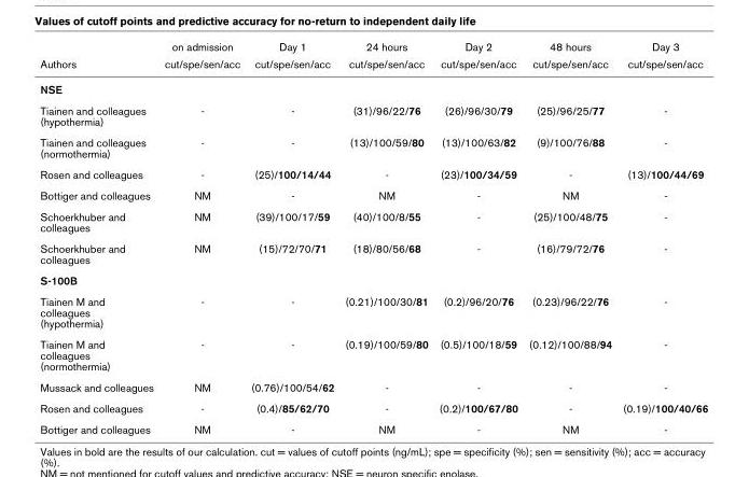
<table><thead><tr><td rowspan="2">Authors</td><td rowspan="2">on admission cut/spe/sen/acc</td><td rowspan="2">Day 1 cut/spe/sen/acc</td><td rowspan="2">24 hours cut/spe/sen/acc</td><td rowspan="2">Day 2 cut/spe/sen/acc</td><td rowspan="2">48 hours cut/spe/sen/acc</td><td rowspan="2">Day 3 cut/spe/sen/acc</td></tr><tr></tr></thead><tbody><tr><td colspan="7">NSE</td></tr><tr><td>Tiainen and colleagues (hypothermia)</td><td>-</td><td>-</td><td>(31)/96/22/76</td><td>(26)/96/30/79</td><td>(25)/96/25/77</td><td>-</td></tr><tr><td>Tiainen and colleagues (normothermia)</td><td>-</td><td>-</td><td>(13)/100/59/80</td><td>(13)/100/63/82</td><td>(9)/100/76/88</td><td>-</td></tr><tr><td>Rosen and colleagues</td><td>-</td><td>(25)/100/14/44</td><td>-</td><td>(23)/100/34/59</td><td>-</td><td>(13)/100/44/69</td></tr><tr><td>Bottiger and colleagues</td><td>NM</td><td>-</td><td>NM</td><td>-</td><td>NM</td><td>-</td></tr><tr><td>Schoerkhuber and colleagues</td><td>NM</td><td>(39)/100/17/59</td><td>(40)/100/8/55</td><td>-</td><td>(25)/100/48/75</td><td>-</td></tr><tr><td>Schoerkhuber and colleagues</td><td>NM</td><td>(15)/72/70/71</td><td>(18)/80/56/68</td><td>-</td><td>(16)/79/72/76</td><td>-</td></tr><tr><td colspan="7">S-100B</td></tr><tr><td>Tiainen M and colleagues (hypothermia)</td><td>-</td><td>-</td><td>(0.21)/100/30/81</td><td>(0.2)/96/20/76</td><td>(0.23)/96/22/76</td><td>-</td></tr><tr><td>Tiainen M and colleagues (normothermia)</td><td>-</td><td>-</td><td>(0.19)/100/59/80</td><td>(0.5)/100/18/59</td><td>(0.12)/100/88/94</td><td>-</td></tr><tr><td>Mussack and colleagues</td><td>NM</td><td>(0.76)/100/54/62</td><td>-</td><td>-</td><td>-</td><td>-</td></tr><tr><td>Rosen and colleagues</td><td>-</td><td>(0.4)/85/62/70</td><td>-</td><td>(0.2)/100/67/80</td><td>-</td><td>(0.19)/100/40/66</td></tr><tr><td>Bottiger and colleagues</td><td>NM</td><td>-</td><td>NM</td><td>-</td><td>NM</td><td>-</td></tr></tbody></table>